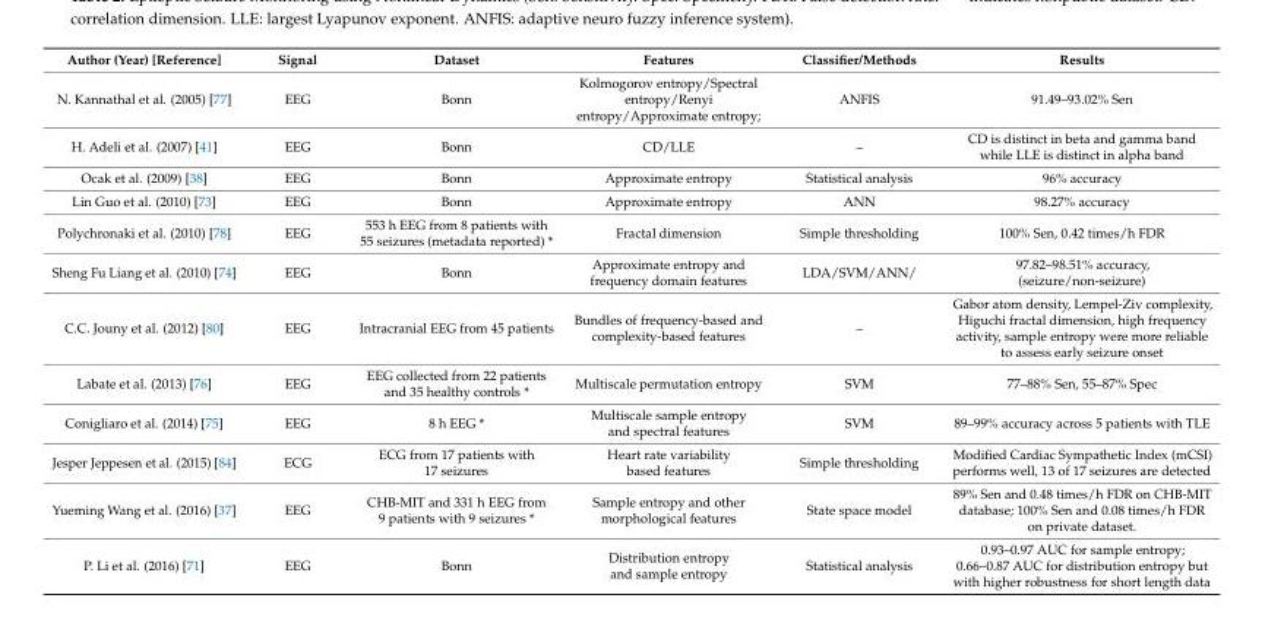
<table><thead><tr><td>Author (Year) [Reference]</td><td>Signal</td><td>Dataset</td><td>Features</td><td>Classifier/Methods</td><td>Results</td></tr></thead><tbody><tr><td>N. Kannathal et al. (2005) [77]</td><td>EEG</td><td>Bonn</td><td>Kolmogorov entropy/Spectral entropy/Renyi entropy/Approximate entropy;</td><td>ANFIS</td><td>91.49–93.02% Sen</td></tr><tr><td>H. Adeli et al. (2007) [41]</td><td>EEG</td><td>Bonn</td><td>CD/LLE</td><td>–</td><td>CD is distinct in beta and gamma band while LLE is distinct in alpha band</td></tr><tr><td>Ocak et al. (2009) [38]</td><td>EEG</td><td>Bonn</td><td>Approximate entropy</td><td>Statistical analysis</td><td>96% accuracy</td></tr><tr><td>Lin Guo et al. (2010) [73]</td><td>EEG</td><td>Bonn</td><td>Approximate entropy</td><td>ANN</td><td>98.27% accuracy</td></tr><tr><td>Polychronaki et al. (2010) [78]</td><td>EEG</td><td>553 h EEG from 8 patients with 55 seizures (metadata reported) *</td><td>Fractal dimension</td><td>Simple thresholding</td><td>100% Sen, 0.42 times/h FDR</td></tr><tr><td>Sheng Fu Liang et al. (2010) [74]</td><td>EEG</td><td>Bonn</td><td>Approximate entropy and frequency domain features</td><td>LDA/SVM/ANN/</td><td>97.82–98.51% accuracy, (seizure/non-seizure)</td></tr><tr><td>C.C. Jouny et al. (2012) [80]</td><td>EEG</td><td>Intracranial EEG from 45 patients</td><td>Bundles of frequency-based and complexity-based features</td><td>–</td><td>Gabor atom density, Lempel-Ziv complexity, Higuchi fractal dimension, high frequency activity, sample entropy were more reliable to assess early seizure onset</td></tr><tr><td>Labate et al. (2013) [76]</td><td>EEG</td><td>EEG collected from 22 patients and 35 healthy controls *</td><td>Multiscale permutation entropy</td><td>SVM</td><td>77–88% Sen, 55–87% Spec</td></tr><tr><td>Conigliaro et al. (2014) [75]</td><td>EEG</td><td>8 h EEG *</td><td>Multiscale sample entropy and spectral features</td><td>SVM</td><td>89–99% accuracy across 5 patients with TLE</td></tr><tr><td>Jesper Jeppesen et al. (2015) [84]</td><td>ECG</td><td>ECG from 17 patients with 17 seizures</td><td>Heart rate variability based features</td><td>Simple thresholding</td><td>Modified Cardiac Sympathetic Index (mCSI) performs well, 13 of 17 seizures are detected</td></tr><tr><td>Yueming Wang et al. (2016) [37]</td><td>EEG</td><td>CHB-MIT and 331 h EEG from 9 patients with 9 seizures *</td><td>Sample entropy and other morphological features</td><td>State space model</td><td>89% Sen and 0.48 times/h FDR on CHB-MIT database; 100% Sen and 0.08 times/h FDR on private dataset.</td></tr><tr><td>P. Li et al. (2016) [71]</td><td>EEG</td><td>Bonn</td><td>Distribution entropy and sample entropy</td><td>Statistical analysis</td><td>0.93–0.97 AUC for sample entropy; 0.66–0.87 AUC for distribution entropy but with higher robustness for short length data</td></tr></tbody></table>